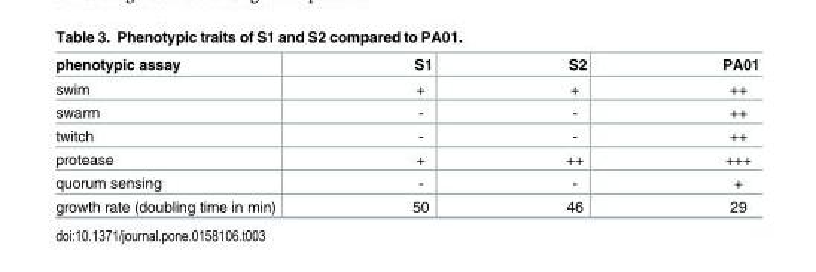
<table><thead><tr><td>phenotypic assay</td><td>S1</td><td>S2</td><td>PA01</td></tr></thead><tbody><tr><td>swim</td><td>+</td><td>+</td><td>++</td></tr><tr><td>swarm</td><td>-</td><td>-</td><td>++</td></tr><tr><td>twitch</td><td>-</td><td>-</td><td>++</td></tr><tr><td>protease</td><td>+</td><td>++</td><td>+++</td></tr><tr><td>quorum sensing</td><td>-</td><td>-</td><td>+</td></tr><tr><td>growth rate (doubling time in min)</td><td>50</td><td>46</td><td>29</td></tr></tbody></table>